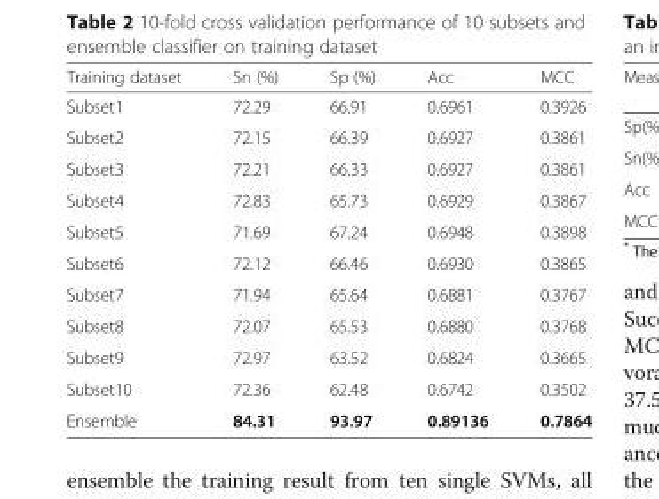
<table><thead><tr><td>Training dataset</td><td>Sn (%)</td><td>Sp (%)</td><td>Acc</td><td>MCC</td></tr></thead><tbody><tr><td>Subset1</td><td>72.29</td><td>66.91</td><td>0.6961</td><td>0.3926</td></tr><tr><td>Subset2</td><td>72.15</td><td>66.39</td><td>0.6927</td><td>0.3861</td></tr><tr><td>Subset3</td><td>72.21</td><td>66.33</td><td>0.6927</td><td>0.3861</td></tr><tr><td>Subset4</td><td>72.83</td><td>65.73</td><td>0.6929</td><td>0.3867</td></tr><tr><td>Subset5</td><td>71.69</td><td>67.24</td><td>0.6948</td><td>0.3898</td></tr><tr><td>Subset6</td><td>72.12</td><td>66.46</td><td>0.6930</td><td>0.3865</td></tr><tr><td>Subset7</td><td>71.94</td><td>65.64</td><td>0.6881</td><td>0.3767</td></tr><tr><td>Subset8</td><td>72.07</td><td>65.53</td><td>0.6880</td><td>0.3768</td></tr><tr><td>Subset9</td><td>72.97</td><td>63.52</td><td>0.6824</td><td>0.3665</td></tr><tr><td>Subset10</td><td>72.36</td><td>62.48</td><td>0.6742</td><td>0.3502</td></tr><tr><td>Ensemble</td><td>84.31</td><td>93.97</td><td>0.89136</td><td>0.7864</td></tr></tbody></table>